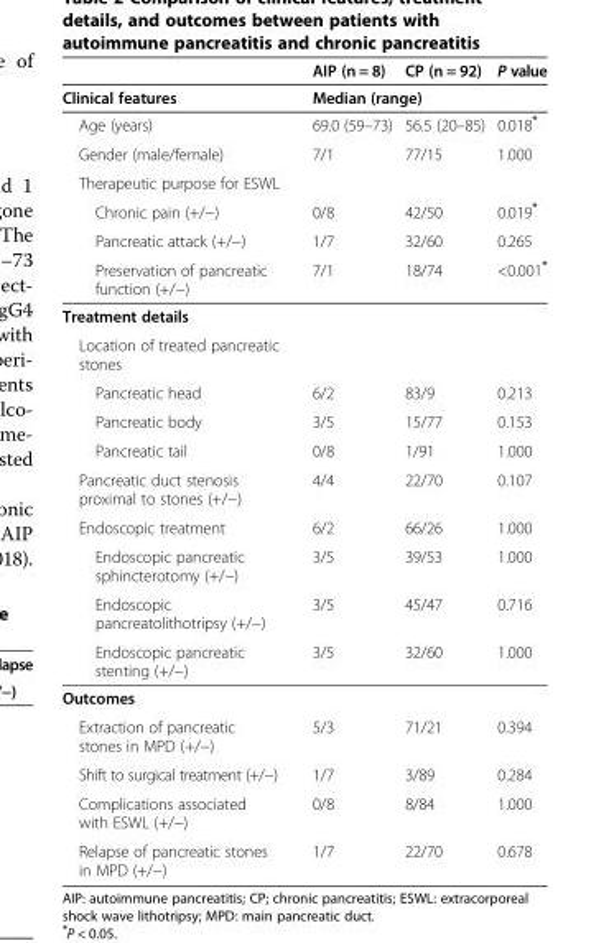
<table><thead><tr><td></td><td>AIP (n = 8)</td><td>CP (n = 92)</td><td>P value</td></tr></thead><tbody><tr><td>Clinical features</td><td colspan="2">Median (range)</td><td></td></tr><tr><td>Age (years)</td><td>69.0 (59–73)</td><td>56.5 (20–85)</td><td>0.018*</td></tr><tr><td>Gender (male/female)</td><td>7/1</td><td>77/15</td><td>1.000</td></tr><tr><td colspan="4">Therapeutic purpose for ESWL</td></tr><tr><td>Chronic pain (+/−)</td><td>0/8</td><td>42/50</td><td>0.019*</td></tr><tr><td>Pancreatic attack (+/−)</td><td>1/7</td><td>32/60</td><td>0.265</td></tr><tr><td>Preservation of pancreatic function (+/−)</td><td>7/1</td><td>18/74</td><td>&lt;0.001*</td></tr><tr><td colspan="4">Treatment details</td></tr><tr><td colspan="4">Location of treated pancreatic stones</td></tr><tr><td>Pancreatic head</td><td>6/2</td><td>83/9</td><td>0.213</td></tr><tr><td>Pancreatic body</td><td>3/5</td><td>15/77</td><td>0.153</td></tr><tr><td>Pancreatic tail</td><td>0/8</td><td>1/91</td><td>1.000</td></tr><tr><td>Pancreatic duct stenosis proximal to stones (+/−)</td><td>4/4</td><td>22/70</td><td>0.107</td></tr><tr><td>Endoscopic treatment</td><td>6/2</td><td>66/26</td><td>1.000</td></tr><tr><td>Endoscopic pancreatic sphincterotomy (+/−)</td><td>3/5</td><td>39/53</td><td>1.000</td></tr><tr><td>Endoscopic pancreatolithotripsy (+/−)</td><td>3/5</td><td>45/47</td><td>0.716</td></tr><tr><td>Endoscopic pancreatic stenting (+/−)</td><td>3/5</td><td>32/60</td><td>1.000</td></tr><tr><td colspan="4">Outcomes</td></tr><tr><td>Extraction of pancreatic stones in MPD (+/−)</td><td>5/3</td><td>71/21</td><td>0.394</td></tr><tr><td>Shift to surgical treatment (+/−)</td><td>1/7</td><td>3/89</td><td>0.284</td></tr><tr><td>Complications associated with ESWL (+/−)</td><td>0/8</td><td>8/84</td><td>1.000</td></tr><tr><td>Relapse of pancreatic stones in MPD (+/−)</td><td>1/7</td><td>22/70</td><td>0.678</td></tr></tbody></table>